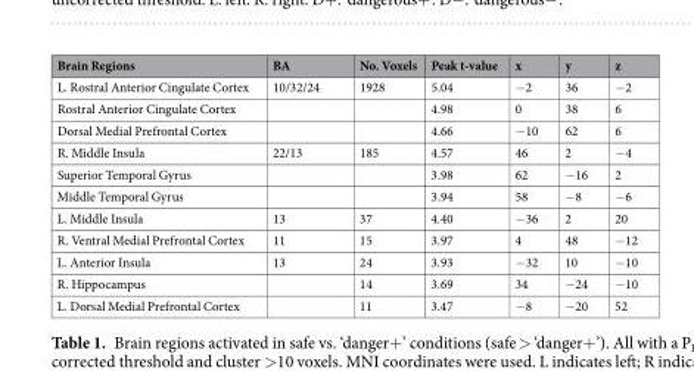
<table><thead><tr><td>Brain Regions</td><td>BA</td><td>No. Voxels</td><td>Peak t-value</td><td>x</td><td>y</td><td>z</td></tr></thead><tbody><tr><td>L. Rostral Anterior Cingulate Cortex</td><td>10/32/24</td><td>1928</td><td>5.04</td><td>−2</td><td>36</td><td>−2</td></tr><tr><td>Rostral Anterior Cingulate Cortex</td><td></td><td></td><td>4.98</td><td>0</td><td>38</td><td>6</td></tr><tr><td>Dorsal Medial Prefrontal Cortex</td><td></td><td></td><td>4.66</td><td>−10</td><td>62</td><td>6</td></tr><tr><td>R. Middle Insula</td><td>22/13</td><td>185</td><td>4.57</td><td>46</td><td>2</td><td>−4</td></tr><tr><td>Superior Temporal Gyrus</td><td></td><td></td><td>3.98</td><td>62</td><td>−16</td><td>2</td></tr><tr><td>Middle Temporal Gyrus</td><td></td><td></td><td>3.94</td><td>58</td><td>−8</td><td>−6</td></tr><tr><td>L. Middle Insula</td><td>13</td><td>37</td><td>4.40</td><td>−36</td><td>2</td><td>20</td></tr><tr><td>R. Ventral Medial Prefrontal Cortex</td><td>11</td><td>15</td><td>3.97</td><td>4</td><td>48</td><td>−12</td></tr><tr><td>L. Anterior Insula</td><td>13</td><td>24</td><td>3.93</td><td>−32</td><td>10</td><td>−10</td></tr><tr><td>R. Hippocampus</td><td></td><td>14</td><td>3.69</td><td>34</td><td>−24</td><td>−10</td></tr><tr><td>L. Dorsal Medial Prefrontal Cortex</td><td></td><td>11</td><td>3.47</td><td>−8</td><td>−20</td><td>52</td></tr></tbody></table>